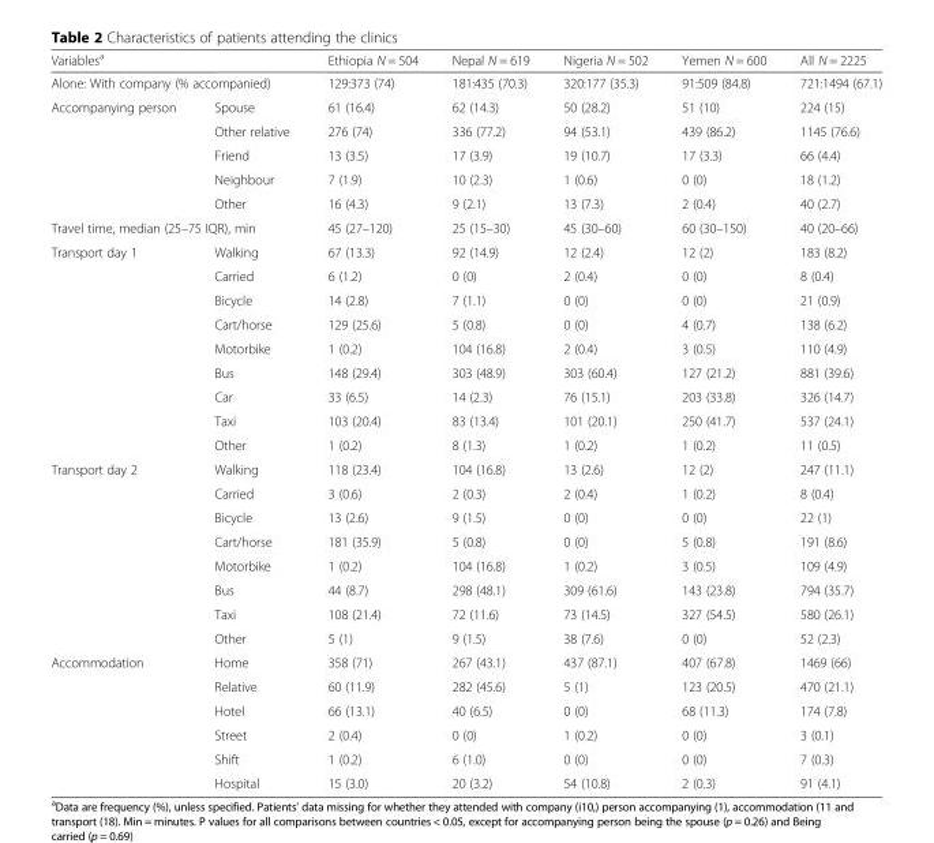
<table><thead><tr><td>Variables<sup>a</sup></td><td></td><td>Ethiopia N = 504</td><td>Nepal N = 619</td><td>Nigeria N = 502</td><td>Yemen N = 600</td><td>All N = 2225</td></tr></thead><tbody><tr><td colspan="2">Alone: With company (% accompanied)</td><td>129:373 (74)</td><td>181:435 (70.3)</td><td>320:177 (35.3)</td><td>91:509 (84.8)</td><td>721:1494 (67.1)</td></tr><tr><td rowspan="5">Accompanying person</td><td>Spouse</td><td>61 (16.4)</td><td>62 (14.3)</td><td>50 (28.2)</td><td>51 (10)</td><td>224 (15)</td></tr><tr><td>Other relative</td><td>276 (74)</td><td>336 (77.2)</td><td>94 (53.1)</td><td>439 (86.2)</td><td>1145 (76.6)</td></tr><tr><td>Friend</td><td>13 (3.5)</td><td>17 (3.9)</td><td>19 (10.7)</td><td>17 (3.3)</td><td>66 (4.4)</td></tr><tr><td>Neighbour</td><td>7 (1.9)</td><td>10 (2.3)</td><td>1 (0.6)</td><td>0 (0)</td><td>18 (1.2)</td></tr><tr><td>Other</td><td>16 (4.3)</td><td>9 (2.1)</td><td>13 (7.3)</td><td>2 (0.4)</td><td>40 (2.7)</td></tr><tr><td colspan="2">Travel time, median (25–75 IQR), min</td><td>45 (27–120)</td><td>25 (15–30)</td><td>45 (30–60)</td><td>60 (30–150)</td><td>40 (20–66)</td></tr><tr><td rowspan="9">Transport day 1</td><td>Walking</td><td>67 (13.3)</td><td>92 (14.9)</td><td>12 (2.4)</td><td>12 (2)</td><td>183 (8.2)</td></tr><tr><td>Carried</td><td>6 (1.2)</td><td>0 (0)</td><td>2 (0.4)</td><td>0 (0)</td><td>8 (0.4)</td></tr><tr><td>Bicycle</td><td>14 (2.8)</td><td>7 (1.1)</td><td>0 (0)</td><td>0 (0)</td><td>21 (0.9)</td></tr><tr><td>Cart/horse</td><td>129 (25.6)</td><td>5 (0.8)</td><td>0 (0)</td><td>4 (0.7)</td><td>138 (6.2)</td></tr><tr><td>Motorbike</td><td>1 (0.2)</td><td>104 (16.8)</td><td>2 (0.4)</td><td>3 (0.5)</td><td>110 (4.9)</td></tr><tr><td>Bus</td><td>148 (29.4)</td><td>303 (48.9)</td><td>303 (60.4)</td><td>127 (21.2)</td><td>881 (39.6)</td></tr><tr><td>Car</td><td>33 (6.5)</td><td>14 (2.3)</td><td>76 (15.1)</td><td>203 (33.8)</td><td>326 (14.7)</td></tr><tr><td>Taxi</td><td>103 (20.4)</td><td>83 (13.4)</td><td>101 (20.1)</td><td>250 (41.7)</td><td>537 (24.1)</td></tr><tr><td>Other</td><td>1 (0.2)</td><td>8 (1.3)</td><td>1 (0.2)</td><td>1 (0.2)</td><td>11 (0.5)</td></tr><tr><td rowspan="8">Transport day 2</td><td>Walking</td><td>118 (23.4)</td><td>104 (16.8)</td><td>13 (2.6)</td><td>12 (2)</td><td>247 (11.1)</td></tr><tr><td>Carried</td><td>3 (0.6)</td><td>2 (0.3)</td><td>2 (0.4)</td><td>1 (0.2)</td><td>8 (0.4)</td></tr><tr><td>Bicycle</td><td>13 (2.6)</td><td>9 (1.5)</td><td>0 (0)</td><td>0 (0)</td><td>22 (1)</td></tr><tr><td>Cart/horse</td><td>181 (35.9)</td><td>5 (0.8)</td><td>0 (0)</td><td>5 (0.8)</td><td>191 (8.6)</td></tr><tr><td>Motorbike</td><td>1 (0.2)</td><td>104 (16.8)</td><td>1 (0.2)</td><td>3 (0.5)</td><td>109 (4.9)</td></tr><tr><td>Bus</td><td>44 (8.7)</td><td>298 (48.1)</td><td>309 (61.6)</td><td>143 (23.8)</td><td>794 (35.7)</td></tr><tr><td>Taxi</td><td>108 (21.4)</td><td>72 (11.6)</td><td>73 (14.5)</td><td>327 (54.5)</td><td>580 (26.1)</td></tr><tr><td>Other</td><td>5 (1)</td><td>9 (1.5)</td><td>38 (7.6)</td><td>0 (0)</td><td>52 (2.3)</td></tr><tr><td rowspan="6">Accommodation</td><td>Home</td><td>358 (71)</td><td>267 (43.1)</td><td>437 (87.1)</td><td>407 (67.8)</td><td>1469 (66)</td></tr><tr><td>Relative</td><td>60 (11.9)</td><td>282 (45.6)</td><td>5 (1)</td><td>123 (20.5)</td><td>470 (21.1)</td></tr><tr><td>Hotel</td><td>66 (13.1)</td><td>40 (6.5)</td><td>0 (0)</td><td>68 (11.3)</td><td>174 (7.8)</td></tr><tr><td>Street</td><td>2 (0.4)</td><td>0 (0)</td><td>1 (0.2)</td><td>0 (0)</td><td>3 (0.1)</td></tr><tr><td>Shift</td><td>1 (0.2)</td><td>6 (1.0)</td><td>0 (0)</td><td>0 (0)</td><td>7 (0.3)</td></tr><tr><td>Hospital</td><td>15 (3.0)</td><td>20 (3.2)</td><td>54 (10.8)</td><td>2 (0.3)</td><td>91 (4.1)</td></tr></tbody></table>